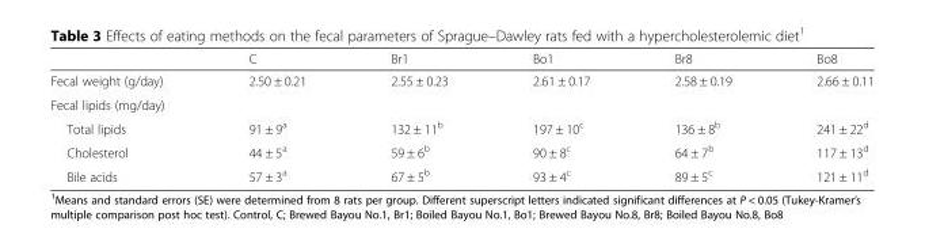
<table><thead><tr><td></td><td>C</td><td>Br1</td><td>Bo1</td><td>Br8</td><td>Bo8</td></tr></thead><tbody><tr><td>Fecal weight (g/day)</td><td>2.50 ± 0.21</td><td>2.55 ± 0.23</td><td>2.61 ± 0.17</td><td>2.58 ± 0.19</td><td>2.66 ± 0.11</td></tr><tr><td colspan="6">Fecal lipids (mg/day)</td></tr><tr><td>Total lipids</td><td>91 ± 9<sup>a</sup></td><td>132 ± 11<sup>b</sup></td><td>197 ± 10<sup>c</sup></td><td>136 ± 8<sup>b</sup></td><td>241 ± 22<sup>d</sup></td></tr><tr><td>Cholesterol</td><td>44 ± 5<sup>a</sup></td><td>59 ± 6<sup>b</sup></td><td>90 ± 8<sup>c</sup></td><td>64 ± 7<sup>b</sup></td><td>117 ± 13<sup>d</sup></td></tr><tr><td>Bile acids</td><td>57 ± 3<sup>a</sup></td><td>67 ± 5<sup>b</sup></td><td>93 ± 4<sup>c</sup></td><td>89 ± 5<sup>c</sup></td><td>121 ± 11<sup>d</sup></td></tr></tbody></table>